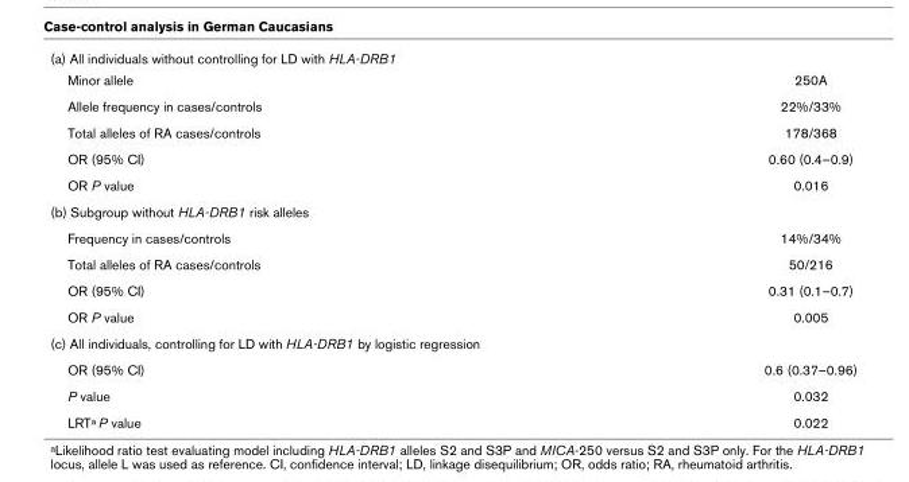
<table><tbody><tr><td colspan="2">(a) All individuals without controlling for LD with HLA-DRB1</td></tr><tr><td>Minor allele</td><td>250A</td></tr><tr><td>Allele frequency in cases/controls</td><td>22%/33%</td></tr><tr><td>Total alleles of RA cases/controls</td><td>178/368</td></tr><tr><td>OR (95% CI)</td><td>0.60 (0.4–0.9)</td></tr><tr><td>OR P value</td><td>0.016</td></tr><tr><td colspan="2">(b) Subgroup without HLA-DRB1 risk alleles</td></tr><tr><td>Frequency in cases/controls</td><td>14%/34%</td></tr><tr><td>Total alleles of RA cases/controls</td><td>50/216</td></tr><tr><td>OR (95% CI)</td><td>0.31 (0.1–0.7)</td></tr><tr><td>OR P value</td><td>0.005</td></tr><tr><td colspan="2">(c) All individuals, controlling for LD with HLA-DRB1 by logistic regression</td></tr><tr><td>OR (95% CI)</td><td>0.6 (0.37–0.96)</td></tr><tr><td>P value</td><td>0.032</td></tr><tr><td>LRT<sup>a</sup> P value</td><td>0.022</td></tr></tbody></table>